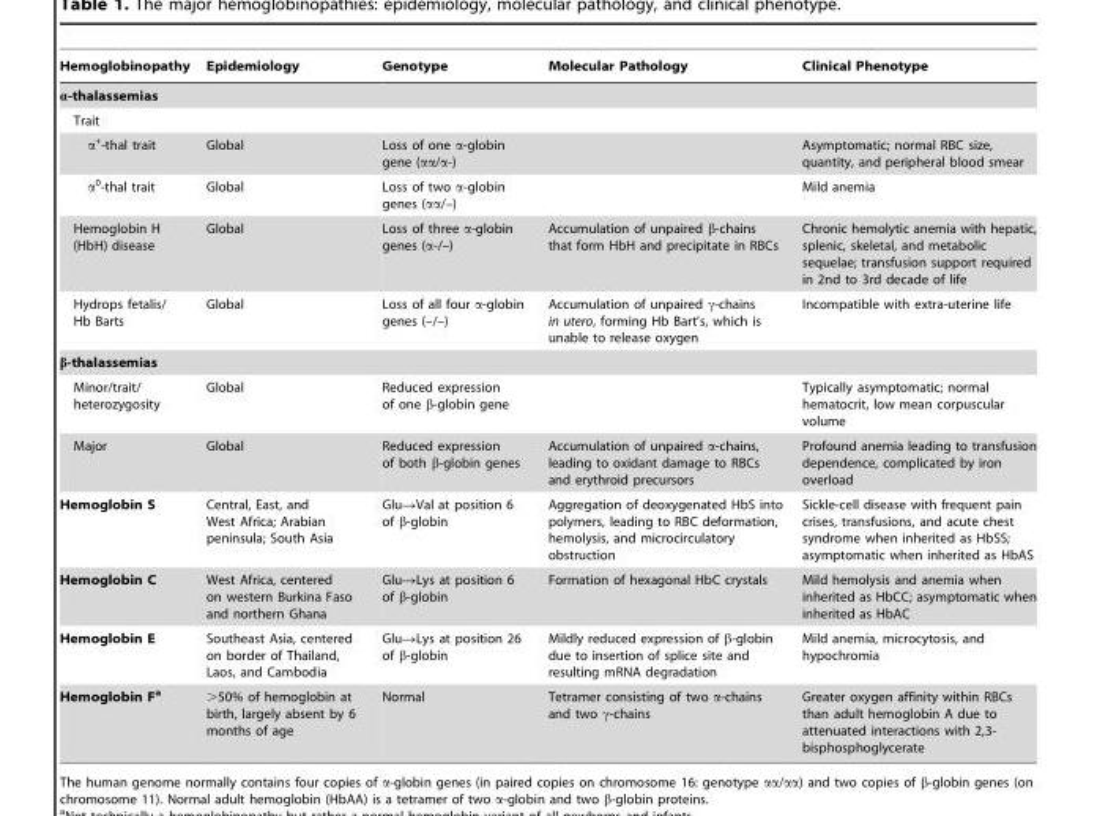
<table><thead><tr><td>Hemoglobinopathy</td><td>Epidemiology</td><td>Genotype</td><td>Molecular Pathology</td><td>Clinical Phenotype</td></tr></thead><tbody><tr><td colspan="5">α-thalassemias</td></tr><tr><td colspan="5">Trait</td></tr><tr><td>α<sup>+</sup>-thal trait</td><td>Global</td><td>Loss of one α-globin gene (αα/α-)</td><td></td><td>Asymptomatic; normal RBC size, quantity, and peripheral blood smear</td></tr><tr><td>α<sup>0</sup>-thal trait</td><td>Global</td><td>Loss of two α-globin genes (αα/–)</td><td></td><td>Mild anemia</td></tr><tr><td>Hemoglobin H (HbH) disease</td><td>Global</td><td>Loss of three α-globin genes (α-/–)</td><td>Accumulation of unpaired β-chains that form HbH and precipitate in RBCs</td><td>Chronic hemolytic anemia with hepatic, splenic, skeletal, and metabolic sequelae; transfusion support required in 2nd to 3rd decade of life</td></tr><tr><td>Hydrops fetalis/ Hb Barts</td><td>Global</td><td>Loss of all four α-globin genes (–/–)</td><td>Accumulation of unpaired γ-chains in utero, forming Hb Bart’s, which is unable to release oxygen</td><td>Incompatible with extra-uterine life</td></tr><tr><td colspan="5">β-thalassemias</td></tr><tr><td>Minor/trait/ heterozygosity</td><td>Global</td><td>Reduced expression of one β-globin gene</td><td></td><td>Typically asymptomatic; normal hematocrit, low mean corpuscular volume</td></tr><tr><td>Major</td><td>Global</td><td>Reduced expression of both β-globin genes</td><td>Accumulation of unpaired α-chains, leading to oxidant damage to RBCs and erythroid precursors</td><td>Profound anemia leading to transfusion dependence, complicated by iron overload</td></tr><tr><td>Hemoglobin S</td><td>Central, East, and West Africa; Arabian peninsula; South Asia</td><td>Glu→Val at position 6 of β-globin</td><td>Aggregation of deoxygenated HbS into polymers, leading to RBC deformation, hemolysis, and microcirculatory obstruction</td><td>Sickle-cell disease with frequent pain crises, transfusions, and acute chest syndrome when inherited as HbSS; asymptomatic when inherited as HbAS</td></tr><tr><td>Hemoglobin C</td><td>West Africa, centered on western Burkina Faso and northern Ghana</td><td>Glu→Lys at position 6 of β-globin</td><td>Formation of hexagonal HbC crystals</td><td>Mild hemolysis and anemia when inherited as HbCC; asymptomatic when inherited as HbAC</td></tr><tr><td>Hemoglobin E</td><td>Southeast Asia, centered on border of Thailand, Laos, and Cambodia</td><td>Glu→Lys at position 26 of β-globin</td><td>Mildly reduced expression of β-globin due to insertion of splice site and resulting mRNA degradation</td><td>Mild anemia, microcytosis, and hypochromia</td></tr><tr><td>Hemoglobin Fa</td><td>&gt;50% of hemoglobin at birth, largely absent by 6 months of age</td><td>Normal</td><td>Tetramer consisting of two α-chains and two γ-chains</td><td>Greater oxygen affinity within RBCs than adult hemoglobin A due to attenuated interactions with 2,3- bisphosphoglycerate</td></tr></tbody></table>